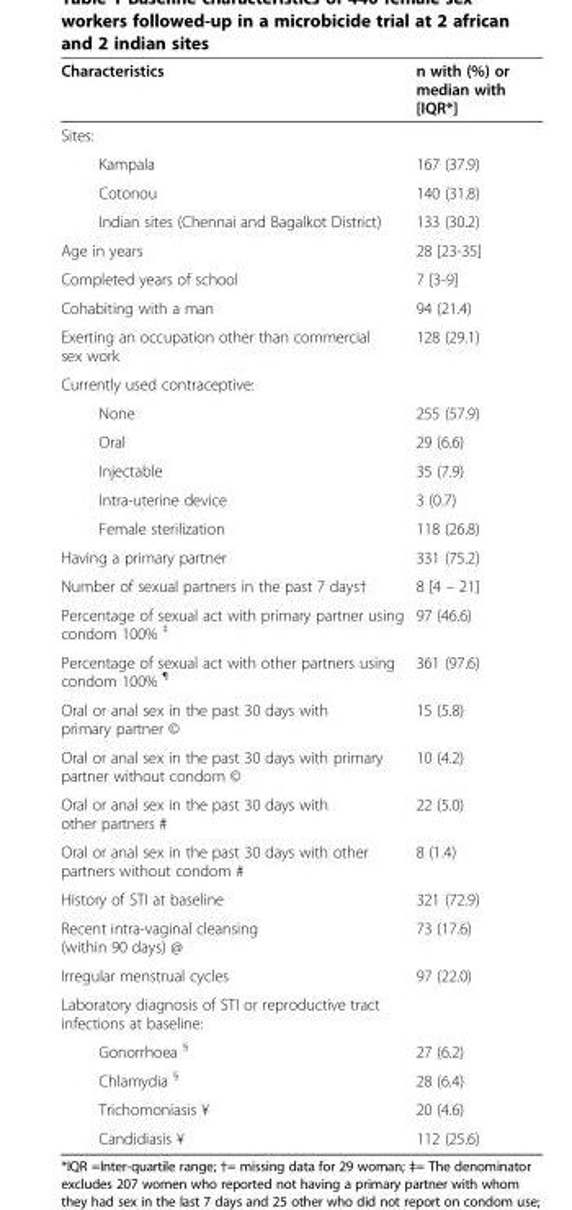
<table><thead><tr><td>Characteristics</td><td>n with (%) or median with [IQR*]</td></tr></thead><tbody><tr><td colspan="2">Sites:</td></tr><tr><td>Kampala</td><td>167 (37.9)</td></tr><tr><td>Cotonou</td><td>140 (31.8)</td></tr><tr><td>Indian sites (Chennai and Bagalkot District)</td><td>133 (30.2)</td></tr><tr><td>Age in years</td><td>28 [23-35]</td></tr><tr><td>Completed years of school</td><td>7 [3-9]</td></tr><tr><td>Cohabiting with a man</td><td>94 (21.4)</td></tr><tr><td>Exerting an occupation other than commercial sex work</td><td>128 (29.1)</td></tr><tr><td colspan="2">Currently used contraceptive:</td></tr><tr><td>None</td><td>255 (57.9)</td></tr><tr><td>Oral</td><td>29 (6.6)</td></tr><tr><td>Injectable</td><td>35 (7.9)</td></tr><tr><td>Intra-uterine device</td><td>3 (0.7)</td></tr><tr><td>Female sterilization</td><td>118 (26.8)</td></tr><tr><td>Having a primary partner</td><td>331 (75.2)</td></tr><tr><td>Number of sexual partners in the past 7 days†</td><td>8 [4 – 21]</td></tr><tr><td>Percentage of sexual act with primary partner using condom 100% <sup>‡</sup></td><td>97 (46.6)</td></tr><tr><td>Percentage of sexual act with other partners using condom 100% <sup>¶</sup></td><td>361 (97.6)</td></tr><tr><td>Oral or anal sex in the past 30 days with primary partner ©</td><td>15 (5.8)</td></tr><tr><td>Oral or anal sex in the past 30 days with primary partner without condom ©</td><td>10 (4.2)</td></tr><tr><td>Oral or anal sex in the past 30 days with other partners #</td><td>22 (5.0)</td></tr><tr><td>Oral or anal sex in the past 30 days with other partners without condom #</td><td>8 (1.4)</td></tr><tr><td>History of STI at baseline</td><td>321 (72.9)</td></tr><tr><td>Recent intra-vaginal cleansing (within 90 days) @</td><td>73 (17.6)</td></tr><tr><td>Irregular menstrual cycles</td><td>97 (22.0)</td></tr><tr><td colspan="2">Laboratory diagnosis of STI or reproductive tract infections at baseline:</td></tr><tr><td>Gonorrhoea <sup>§</sup></td><td>27 (6.2)</td></tr><tr><td>Chlamydia <sup>§</sup></td><td>28 (6.4)</td></tr><tr><td>Trichomoniasis ¥</td><td>20 (4.6)</td></tr><tr><td>Candidiasis ¥</td><td>112 (25.6)</td></tr></tbody></table>